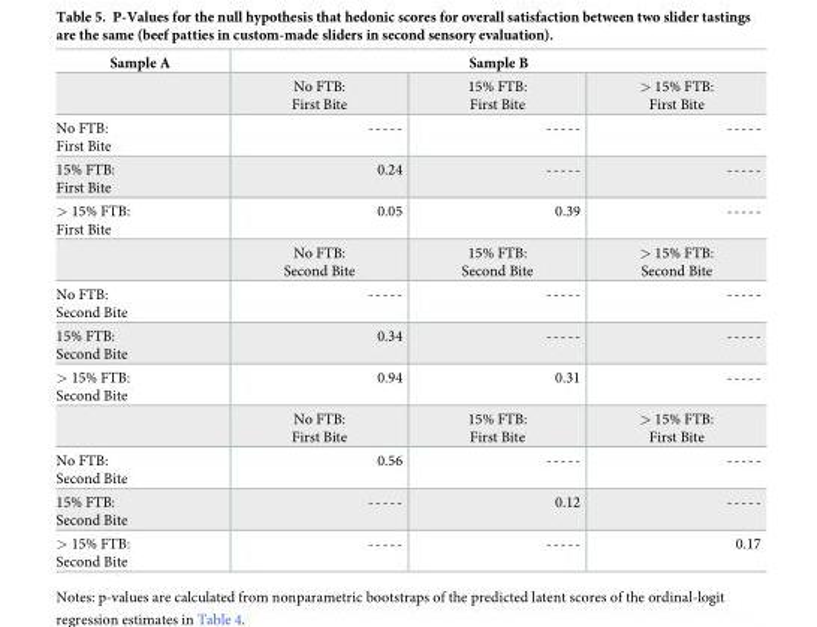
<table><thead><tr><td rowspan="2">Sample A</td><td colspan="3">Sample B</td></tr><tr><td>No FTB: First Bite</td><td>15% FTB: First Bite</td><td>&gt; 15% FTB: First Bite</td></tr></thead><tbody><tr><td>No FTB: First Bite</td><td>-----</td><td>-----</td><td>-----</td></tr><tr><td>15% FTB: First Bite</td><td>0.24</td><td>-----</td><td>-----</td></tr><tr><td rowspan="2">&gt; 15% FTB: First Bite</td><td>0.05</td><td>0.39</td><td>-----</td></tr><tr><td>No FTB: Second Bite</td><td>15% FTB: Second Bite</td><td>&gt; 15% FTB: Second Bite</td></tr><tr><td>No FTB: Second Bite</td><td>-----</td><td>-----</td><td>-----</td></tr><tr><td>15% FTB: Second Bite</td><td>0.34</td><td>-----</td><td>-----</td></tr><tr><td rowspan="2">&gt; 15% FTB: Second Bite</td><td>0.94</td><td>0.31</td><td>-----</td></tr><tr><td>No FTB: First Bite</td><td>15% FTB: First Bite</td><td>&gt; 15% FTB: First Bite</td></tr><tr><td>No FTB: Second Bite</td><td>0.56</td><td>-----</td><td>-----</td></tr><tr><td>15% FTB: Second Bite</td><td>-----</td><td>0.12</td><td>-----</td></tr><tr><td>&gt; 15% FTB: Second Bite</td><td>-----</td><td>-----</td><td>0.17</td></tr></tbody></table>